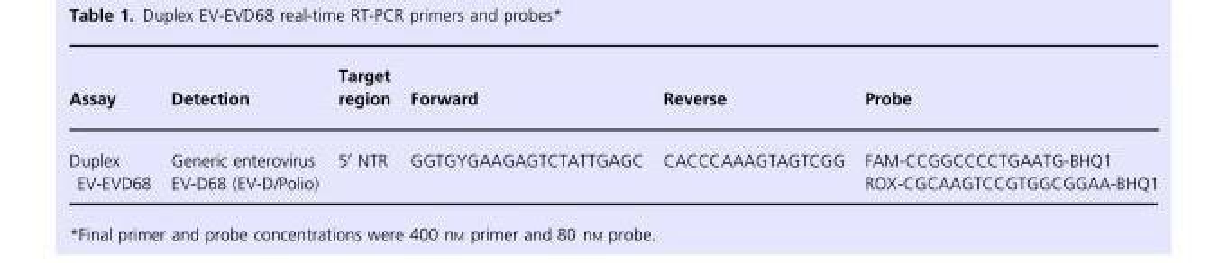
<table><thead><tr><td>Assay</td><td>Detection</td><td>Target region</td><td>Forward</td><td>Reverse</td><td>Probe</td></tr></thead><tbody><tr><td rowspan="2">Duplex EV-EVD68</td><td>Generic enterovirus</td><td rowspan="2">5′ NTR</td><td rowspan="2">GGTGYGAAGAGTCTATTGAGC</td><td rowspan="2">CACCCAAAGTAGTCGG</td><td>FAM-CCGGCCCCTGAATG-BHQ1</td></tr><tr><td>EV-D68 (EV-D/Polio)</td><td>ROX-CGCAAGTCCGTGGCGGAA-BHQ1</td></tr></tbody></table>